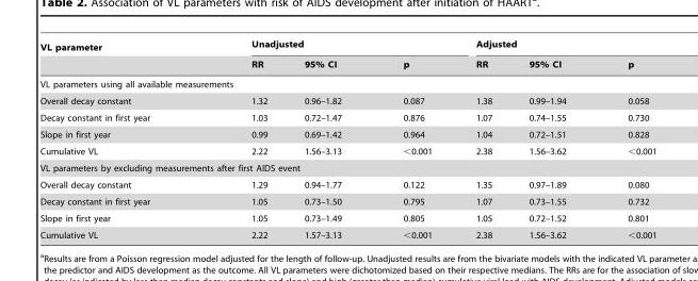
<table><thead><tr><td rowspan="2">VL parameter</td><td colspan="3">Unadjusted</td><td colspan="3">Adjusted</td></tr><tr><td>RR</td><td>95% CI</td><td>p</td><td>RR</td><td>95% CI</td><td>p</td></tr></thead><tbody><tr><td colspan="7">VL parameters using all available measurements</td></tr><tr><td>Overall decay constant</td><td>1.32</td><td>0.96–1.82</td><td>0.087</td><td>1.38</td><td>0.99–1.94</td><td>0.058</td></tr><tr><td>Decay constant in first year</td><td>1.03</td><td>0.72–1.47</td><td>0.876</td><td>1.07</td><td>0.74–1.55</td><td>0.730</td></tr><tr><td>Slope in first year</td><td>0.99</td><td>0.69–1.42</td><td>0.964</td><td>1.04</td><td>0.72–1.51</td><td>0.828</td></tr><tr><td>Cumulative VL</td><td>2.22</td><td>1.56–3.13</td><td>&lt;0.001</td><td>2.38</td><td>1.56–3.62</td><td>&lt;0.001</td></tr><tr><td colspan="7">VL parameters by excluding measurements after first AIDS event</td></tr><tr><td>Overall decay constant</td><td>1.29</td><td>0.94–1.77</td><td>0.122</td><td>1.35</td><td>0.97–1.89</td><td>0.080</td></tr><tr><td>Decay constant in first year</td><td>1.05</td><td>0.73–1.50</td><td>0.795</td><td>1.07</td><td>0.73–1.55</td><td>0.732</td></tr><tr><td>Slope in first year</td><td>1.05</td><td>0.73–1.49</td><td>0.805</td><td>1.05</td><td>0.72–1.52</td><td>0.801</td></tr><tr><td>Cumulative VL</td><td>2.22</td><td>1.57–3.13</td><td>&lt;0.001</td><td>2.38</td><td>1.56–3.62</td><td>&lt;0.001</td></tr></tbody></table>